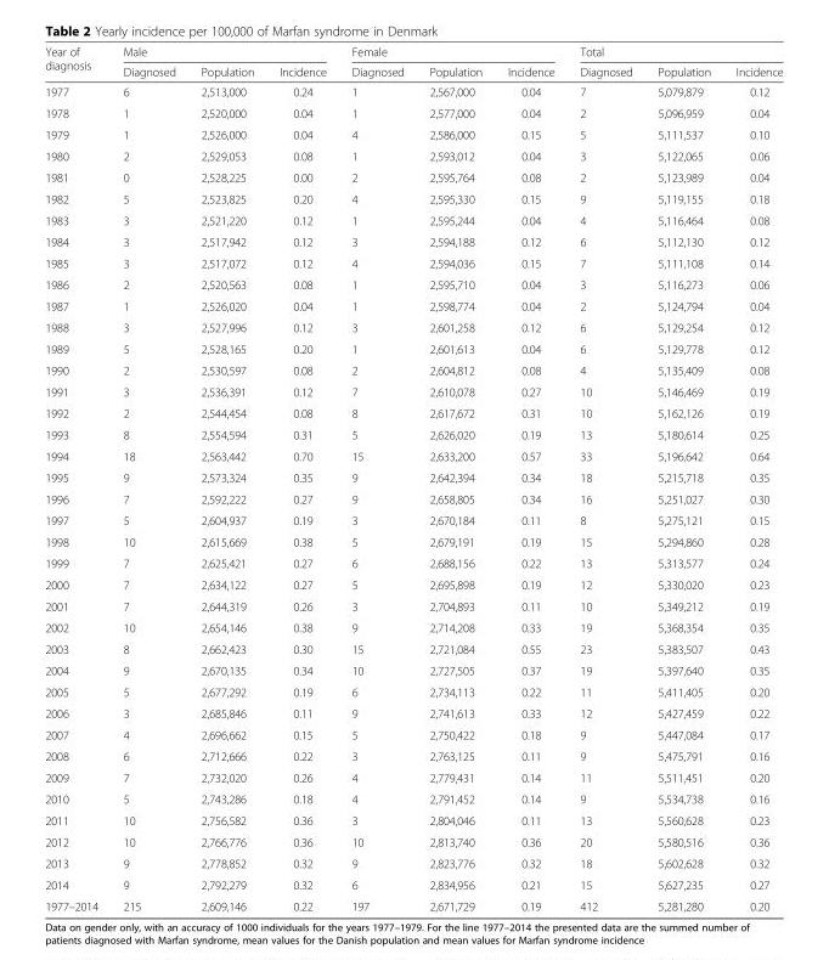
<table><thead><tr><td rowspan="2">Year of diagnosis</td><td colspan="3">Male</td><td colspan="3">Female</td><td colspan="3">Total</td></tr><tr><td>Diagnosed</td><td>Population</td><td>Incidence</td><td>Diagnosed</td><td>Population</td><td>Incidence</td><td>Diagnosed</td><td>Population</td><td>Incidence</td></tr></thead><tbody><tr><td>1977</td><td>6</td><td>2,513,000</td><td>0.24</td><td>1</td><td>2,567,000</td><td>0.04</td><td>7</td><td>5,079,879</td><td>0.12</td></tr><tr><td>1978</td><td>1</td><td>2,520,000</td><td>0.04</td><td>1</td><td>2,577,000</td><td>0.04</td><td>2</td><td>5,096,959</td><td>0.04</td></tr><tr><td>1979</td><td>1</td><td>2,526,000</td><td>0.04</td><td>4</td><td>2,586,000</td><td>0.15</td><td>5</td><td>5,111,537</td><td>0.10</td></tr><tr><td>1980</td><td>2</td><td>2,529,053</td><td>0.08</td><td>1</td><td>2,593,012</td><td>0.04</td><td>3</td><td>5,122,065</td><td>0.06</td></tr><tr><td>1981</td><td>0</td><td>2,528,225</td><td>0.00</td><td>2</td><td>2,595,764</td><td>0.08</td><td>2</td><td>5,123,989</td><td>0.04</td></tr><tr><td>1982</td><td>5</td><td>2,523,825</td><td>0.20</td><td>4</td><td>2,595,330</td><td>0.15</td><td>9</td><td>5,119,155</td><td>0.18</td></tr><tr><td>1983</td><td>3</td><td>2,521,220</td><td>0.12</td><td>1</td><td>2,595,244</td><td>0.04</td><td>4</td><td>5,116,464</td><td>0.08</td></tr><tr><td>1984</td><td>3</td><td>2,517,942</td><td>0.12</td><td>3</td><td>2,594,188</td><td>0.12</td><td>6</td><td>5,112,130</td><td>0.12</td></tr><tr><td>1985</td><td>3</td><td>2,517,072</td><td>0.12</td><td>4</td><td>2,594,036</td><td>0.15</td><td>7</td><td>5,111,108</td><td>0.14</td></tr><tr><td>1986</td><td>2</td><td>2,520,563</td><td>0.08</td><td>1</td><td>2,595,710</td><td>0.04</td><td>3</td><td>5,116,273</td><td>0.06</td></tr><tr><td>1987</td><td>1</td><td>2,526,020</td><td>0.04</td><td>1</td><td>2,598,774</td><td>0.04</td><td>2</td><td>5,124,794</td><td>0.04</td></tr><tr><td>1988</td><td>3</td><td>2,527,996</td><td>0.12</td><td>3</td><td>2,601,258</td><td>0.12</td><td>6</td><td>5,129,254</td><td>0.12</td></tr><tr><td>1989</td><td>5</td><td>2,528,165</td><td>0.20</td><td>1</td><td>2,601,613</td><td>0.04</td><td>6</td><td>5,129,778</td><td>0.12</td></tr><tr><td>1990</td><td>2</td><td>2,530,597</td><td>0.08</td><td>2</td><td>2,604,812</td><td>0.08</td><td>4</td><td>5,135,409</td><td>0.08</td></tr><tr><td>1991</td><td>3</td><td>2,536,391</td><td>0.12</td><td>7</td><td>2,610,078</td><td>0.27</td><td>10</td><td>5,146,469</td><td>0.19</td></tr><tr><td>1992</td><td>2</td><td>2,544,454</td><td>0.08</td><td>8</td><td>2,617,672</td><td>0.31</td><td>10</td><td>5,162,126</td><td>0.19</td></tr><tr><td>1993</td><td>8</td><td>2,554,594</td><td>0.31</td><td>5</td><td>2,626,020</td><td>0.19</td><td>13</td><td>5,180,614</td><td>0.25</td></tr><tr><td>1994</td><td>18</td><td>2,563,442</td><td>0.70</td><td>15</td><td>2,633,200</td><td>0.57</td><td>33</td><td>5,196,642</td><td>0.64</td></tr><tr><td>1995</td><td>9</td><td>2,573,324</td><td>0.35</td><td>9</td><td>2,642,394</td><td>0.34</td><td>18</td><td>5,215,718</td><td>0.35</td></tr><tr><td>1996</td><td>7</td><td>2,592,222</td><td>0.27</td><td>9</td><td>2,658,805</td><td>0.34</td><td>16</td><td>5,251,027</td><td>0.30</td></tr><tr><td>1997</td><td>5</td><td>2,604,937</td><td>0.19</td><td>3</td><td>2,670,184</td><td>0.11</td><td>8</td><td>5,275,121</td><td>0.15</td></tr><tr><td>1998</td><td>10</td><td>2,615,669</td><td>0.38</td><td>5</td><td>2,679,191</td><td>0.19</td><td>15</td><td>5,294,860</td><td>0.28</td></tr><tr><td>1999</td><td>7</td><td>2,625,421</td><td>0.27</td><td>6</td><td>2,688,156</td><td>0.22</td><td>13</td><td>5,313,577</td><td>0.24</td></tr><tr><td>2000</td><td>7</td><td>2,634,122</td><td>0.27</td><td>5</td><td>2,695,898</td><td>0.19</td><td>12</td><td>5,330,020</td><td>0.23</td></tr><tr><td>2001</td><td>7</td><td>2,644,319</td><td>0.26</td><td>3</td><td>2,704,893</td><td>0.11</td><td>10</td><td>5,349,212</td><td>0.19</td></tr><tr><td>2002</td><td>10</td><td>2,654,146</td><td>0.38</td><td>9</td><td>2,714,208</td><td>0.33</td><td>19</td><td>5,368,354</td><td>0.35</td></tr><tr><td>2003</td><td>8</td><td>2,662,423</td><td>0.30</td><td>15</td><td>2,721,084</td><td>0.55</td><td>23</td><td>5,383,507</td><td>0.43</td></tr><tr><td>2004</td><td>9</td><td>2,670,135</td><td>0.34</td><td>10</td><td>2,727,505</td><td>0.37</td><td>19</td><td>5,397,640</td><td>0.35</td></tr><tr><td>2005</td><td>5</td><td>2,677,292</td><td>0.19</td><td>6</td><td>2,734,113</td><td>0.22</td><td>11</td><td>5,411,405</td><td>0.20</td></tr><tr><td>2006</td><td>3</td><td>2,685,846</td><td>0.11</td><td>9</td><td>2,741,613</td><td>0.33</td><td>12</td><td>5,427,459</td><td>0.22</td></tr><tr><td>2007</td><td>4</td><td>2,696,662</td><td>0.15</td><td>5</td><td>2,750,422</td><td>0.18</td><td>9</td><td>5,447,084</td><td>0.17</td></tr><tr><td>2008</td><td>6</td><td>2,712,666</td><td>0.22</td><td>3</td><td>2,763,125</td><td>0.11</td><td>9</td><td>5,475,791</td><td>0.16</td></tr><tr><td>2009</td><td>7</td><td>2,732,020</td><td>0.26</td><td>4</td><td>2,779,431</td><td>0.14</td><td>11</td><td>5,511,451</td><td>0.20</td></tr><tr><td>2010</td><td>5</td><td>2,743,286</td><td>0.18</td><td>4</td><td>2,791,452</td><td>0.14</td><td>9</td><td>5,534,738</td><td>0.16</td></tr><tr><td>2011</td><td>10</td><td>2,756,582</td><td>0.36</td><td>3</td><td>2,804,046</td><td>0.11</td><td>13</td><td>5,560,628</td><td>0.23</td></tr><tr><td>2012</td><td>10</td><td>2,766,776</td><td>0.36</td><td>10</td><td>2,813,740</td><td>0.36</td><td>20</td><td>5,580,516</td><td>0.36</td></tr><tr><td>2013</td><td>9</td><td>2,778,852</td><td>0.32</td><td>9</td><td>2,823,776</td><td>0.32</td><td>18</td><td>5,602,628</td><td>0.32</td></tr><tr><td>2014</td><td>9</td><td>2,792,279</td><td>0.32</td><td>6</td><td>2,834,956</td><td>0.21</td><td>15</td><td>5,627,235</td><td>0.27</td></tr><tr><td>1977–2014</td><td>215</td><td>2,609,146</td><td>0.22</td><td>197</td><td>2,671,729</td><td>0.19</td><td>412</td><td>5,281,280</td><td>0.20</td></tr></tbody></table>